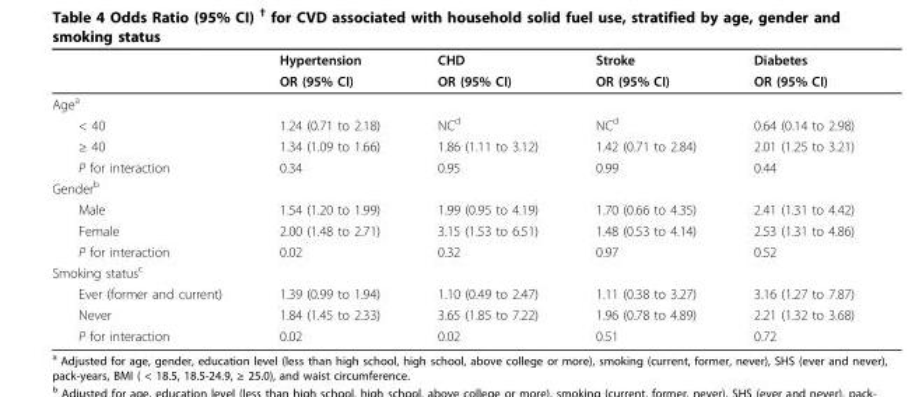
<table><thead><tr><td rowspan="2"></td><td rowspan="2">Hypertension OR (95% CI)</td><td rowspan="2">CHD OR (95% CI)</td><td rowspan="2">Stroke OR (95% CI)</td><td rowspan="2">Diabetes OR (95% CI)</td></tr><tr></tr></thead><tbody><tr><td colspan="5">Age<sup>a</sup></td></tr><tr><td>&lt; 40</td><td>1.24 (0.71 to 2.18)</td><td>NC<sup>d</sup></td><td>NC<sup>d</sup></td><td>0.64 (0.14 to 2.98)</td></tr><tr><td>≥ 40</td><td>1.34 (1.09 to 1.66)</td><td>1.86 (1.11 to 3.12)</td><td>1.42 (0.71 to 2.84)</td><td>2.01 (1.25 to 3.21)</td></tr><tr><td>P for interaction</td><td>0.34</td><td>0.95</td><td>0.99</td><td>0.44</td></tr><tr><td colspan="5">Gender<sup>b</sup></td></tr><tr><td>Male</td><td>1.54 (1.20 to 1.99)</td><td>1.99 (0.95 to 4.19)</td><td>1.70 (0.66 to 4.35)</td><td>2.41 (1.31 to 4.42)</td></tr><tr><td>Female</td><td>2.00 (1.48 to 2.71)</td><td>3.15 (1.53 to 6.51)</td><td>1.48 (0.53 to 4.14)</td><td>2.53 (1.31 to 4.86)</td></tr><tr><td>P for interaction</td><td>0.02</td><td>0.32</td><td>0.97</td><td>0.52</td></tr><tr><td colspan="5">Smoking status<sup>c</sup></td></tr><tr><td>Ever (former and current)</td><td>1.39 (0.99 to 1.94)</td><td>1.10 (0.49 to 2.47)</td><td>1.11 (0.38 to 3.27)</td><td>3.16 (1.27 to 7.87)</td></tr><tr><td>Never</td><td>1.84 (1.45 to 2.33)</td><td>3.65 (1.85 to 7.22)</td><td>1.96 (0.78 to 4.89)</td><td>2.21 (1.32 to 3.68)</td></tr><tr><td>P for interaction</td><td>0.02</td><td>0.02</td><td>0.51</td><td>0.72</td></tr></tbody></table>